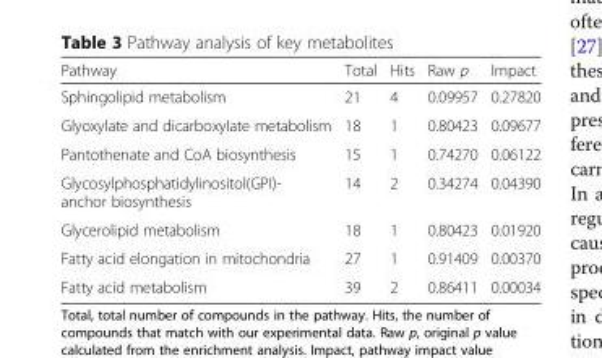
<table><thead><tr><td>Pathway</td><td>Total</td><td>Hits</td><td>Raw p</td><td>Impact</td></tr></thead><tbody><tr><td>Sphingolipid metabolism</td><td>21</td><td>4</td><td>0.09957</td><td>0.27820</td></tr><tr><td>Glyoxylate and dicarboxylate metabolism</td><td>18</td><td>1</td><td>0.80423</td><td>0.09677</td></tr><tr><td>Pantothenate and CoA biosynthesis</td><td>15</td><td>1</td><td>0.74270</td><td>0.06122</td></tr><tr><td>Glycosylphosphatidylinositol(GPI)- anchor biosynthesis</td><td>14</td><td>2</td><td>0.34274</td><td>0.04390</td></tr><tr><td>Glycerolipid metabolism</td><td>18</td><td>1</td><td>0.80423</td><td>0.01920</td></tr><tr><td>Fatty acid elongation in mitochondria</td><td>27</td><td>1</td><td>0.91409</td><td>0.00370</td></tr><tr><td>Fatty acid metabolism</td><td>39</td><td>2</td><td>0.86411</td><td>0.00034</td></tr></tbody></table>